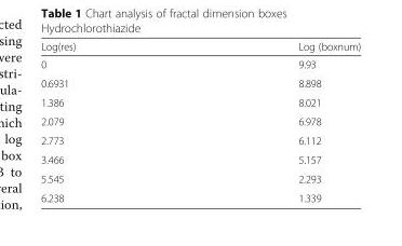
<table><thead><tr><td>Log(res)</td><td>Log (boxnum)</td></tr></thead><tbody><tr><td>0</td><td>9.93</td></tr><tr><td>0.6931</td><td>8.898</td></tr><tr><td>1.386</td><td>8.021</td></tr><tr><td>2.079</td><td>6.978</td></tr><tr><td>2.773</td><td>6.112</td></tr><tr><td>3.466</td><td>5.157</td></tr><tr><td>5.545</td><td>2.293</td></tr><tr><td>6.238</td><td>1.339</td></tr></tbody></table>